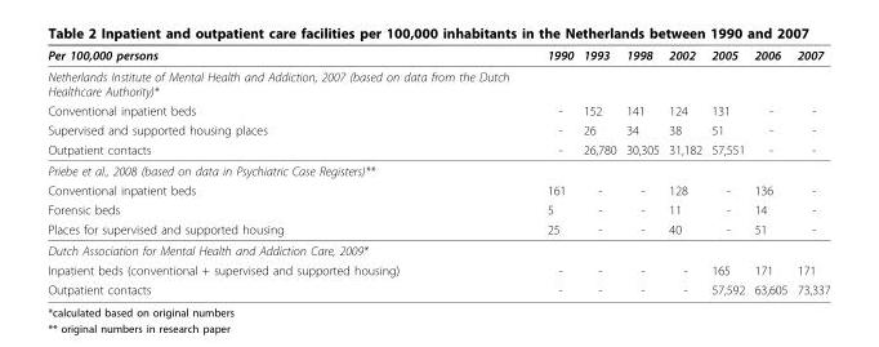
<table><thead><tr><td>Per 100,000 persons</td><td>1990</td><td>1993</td><td>1998</td><td>2002</td><td>2005</td><td>2006</td><td>2007</td></tr></thead><tbody><tr><td colspan="8">Netherlands Institute of Mental Health and Addiction, 2007 (based on data from the Dutch Healthcare Authority)*</td></tr><tr><td>Conventional inpatient beds</td><td>-</td><td>152</td><td>141</td><td>124</td><td>131</td><td>-</td><td>-</td></tr><tr><td>Supervised and supported housing places</td><td>-</td><td>26</td><td>34</td><td>38</td><td>51</td><td>-</td><td>-</td></tr><tr><td>Outpatient contacts</td><td>-</td><td>26,780</td><td>30,305</td><td>31,182</td><td>57,551</td><td>-</td><td>-</td></tr><tr><td colspan="8">Priebe et al., 2008 (based on data in Psychiatric Case Registers)**</td></tr><tr><td>Conventional inpatient beds</td><td>161</td><td>-</td><td>-</td><td>128</td><td>-</td><td>136</td><td>-</td></tr><tr><td>Forensic beds</td><td>5</td><td>-</td><td>-</td><td>11</td><td>-</td><td>14</td><td>-</td></tr><tr><td>Places for supervised and supported housing</td><td>25</td><td>-</td><td>-</td><td>40</td><td>-</td><td>51</td><td>-</td></tr><tr><td colspan="8">Dutch Association for Mental Health and Addiction Care, 2009*</td></tr><tr><td>Inpatient beds (conventional + supervised and supported housing)</td><td>-</td><td>-</td><td>-</td><td>-</td><td>165</td><td>171</td><td>171</td></tr><tr><td>Outpatient contacts</td><td>-</td><td>-</td><td>-</td><td>-</td><td>57,592</td><td>63,605</td><td>73,337</td></tr></tbody></table>